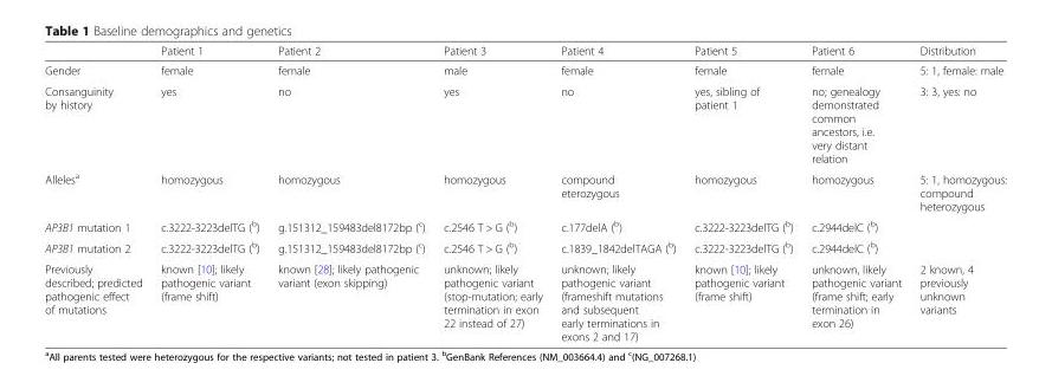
<table><thead><tr><td></td><td>Patient 1</td><td>Patient 2</td><td>Patient 3</td><td>Patient 4</td><td>Patient 5</td><td>Patient 6</td><td>Distribution</td></tr></thead><tbody><tr><td>Gender</td><td>female</td><td>female</td><td>male</td><td>female</td><td>female</td><td>female</td><td>5: 1, female: male</td></tr><tr><td>Consanguinity by history</td><td>yes</td><td>no</td><td>yes</td><td>no</td><td>yes, sibling of patient 1</td><td>no; genealogy demonstrated common ancestors, i.e. very distant relation</td><td>3: 3, yes: no</td></tr><tr><td>Alleles<sup>a</sup></td><td>homozygous</td><td>homozygous</td><td>homozygous</td><td>compound eterozygous</td><td>homozygous</td><td>homozygous</td><td>5: 1, homozygous: compound heterozygous</td></tr><tr><td>AP3B1 mutation 1</td><td>c.3222-3223delTG (<sup>b</sup>)</td><td>g.151312_159483del8172bp (<sup>c</sup>)</td><td>c.2546 T &gt; G (<sup>b</sup>)</td><td>c.177delA (<sup>b</sup>)</td><td>c.3222-3223delTG (<sup>b</sup>)</td><td>c.2944delC (<sup>b</sup>)</td><td></td></tr><tr><td>AP3B1 mutation 2</td><td>c.3222-3223delTG (<sup>b</sup>)</td><td>g.151312_159483del8172bp (<sup>c</sup>)</td><td>c.2546 T &gt; G (<sup>b</sup>)</td><td>c.1839_1842delTAGA (<sup>b</sup>)</td><td>c.3222-3223delTG (<sup>b</sup>)</td><td>c.2944delC (<sup>b</sup>)</td><td></td></tr><tr><td>Previously described; predicted pathogenic effect of mutations</td><td>known [10]; likely pathogenic variant (frame shift)</td><td>known [28]; likely pathogenic variant (exon skipping)</td><td>unknown; likely pathogenic variant (stop-mutation; early termination in exon 22 instead of 27)</td><td>unknown; likely pathogenic variant (frameshift mutations and subsequent early terminations in exons 2 and 17)</td><td>known [10]; likely pathogenic variant (frame shift)</td><td>unknown, likely pathogenic variant (frame shift; early termination in exon 26)</td><td>2 known, 4 previously unknown variants</td></tr></tbody></table>